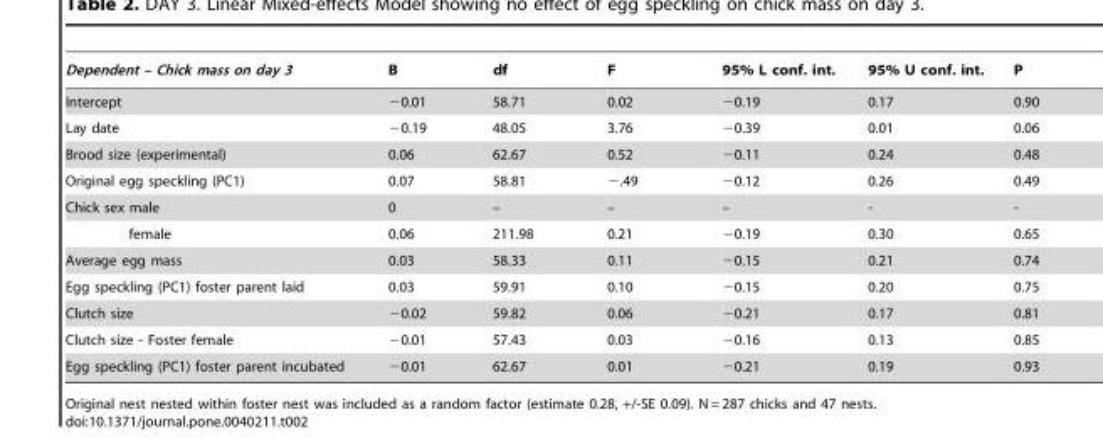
<table><thead><tr><td>Dependent – Chick mass on day 3</td><td>B</td><td>df</td><td>F</td><td>95% L conf. int.</td><td>95% U conf. int.</td><td>P</td></tr></thead><tbody><tr><td>Intercept</td><td>−0.01</td><td>58.71</td><td>0.02</td><td>−0.19</td><td>0.17</td><td>0.90</td></tr><tr><td>Lay date</td><td>−0.19</td><td>48.05</td><td>3.76</td><td>−0.39</td><td>0.01</td><td>0.06</td></tr><tr><td>Brood size (experimental)</td><td>0.06</td><td>62.67</td><td>0.52</td><td>−0.11</td><td>0.24</td><td>0.48</td></tr><tr><td>Original egg speckling (PC1)</td><td>0.07</td><td>58.81</td><td>−.49</td><td>−0.12</td><td>0.26</td><td>0.49</td></tr><tr><td>Chick sex male</td><td>0</td><td>–</td><td>–</td><td>–</td><td>-</td><td>-</td></tr><tr><td>female</td><td>0.06</td><td>211.98</td><td>0.21</td><td>−0.19</td><td>0.30</td><td>0.65</td></tr><tr><td>Average egg mass</td><td>0.03</td><td>58.33</td><td>0.11</td><td>−0.15</td><td>0.21</td><td>0.74</td></tr><tr><td>Egg speckling (PC1) foster parent laid</td><td>0.03</td><td>59.91</td><td>0.10</td><td>−0.15</td><td>0.20</td><td>0.75</td></tr><tr><td>Clutch size</td><td>−0.02</td><td>59.82</td><td>0.06</td><td>−0.21</td><td>0.17</td><td>0.81</td></tr><tr><td>Clutch size - Foster female</td><td>−0.01</td><td>57.43</td><td>0.03</td><td>−0.16</td><td>0.13</td><td>0.85</td></tr><tr><td>Egg speckling (PC1) foster parent incubated</td><td>−0.01</td><td>62.67</td><td>0.01</td><td>−0.21</td><td>0.19</td><td>0.93</td></tr></tbody></table>